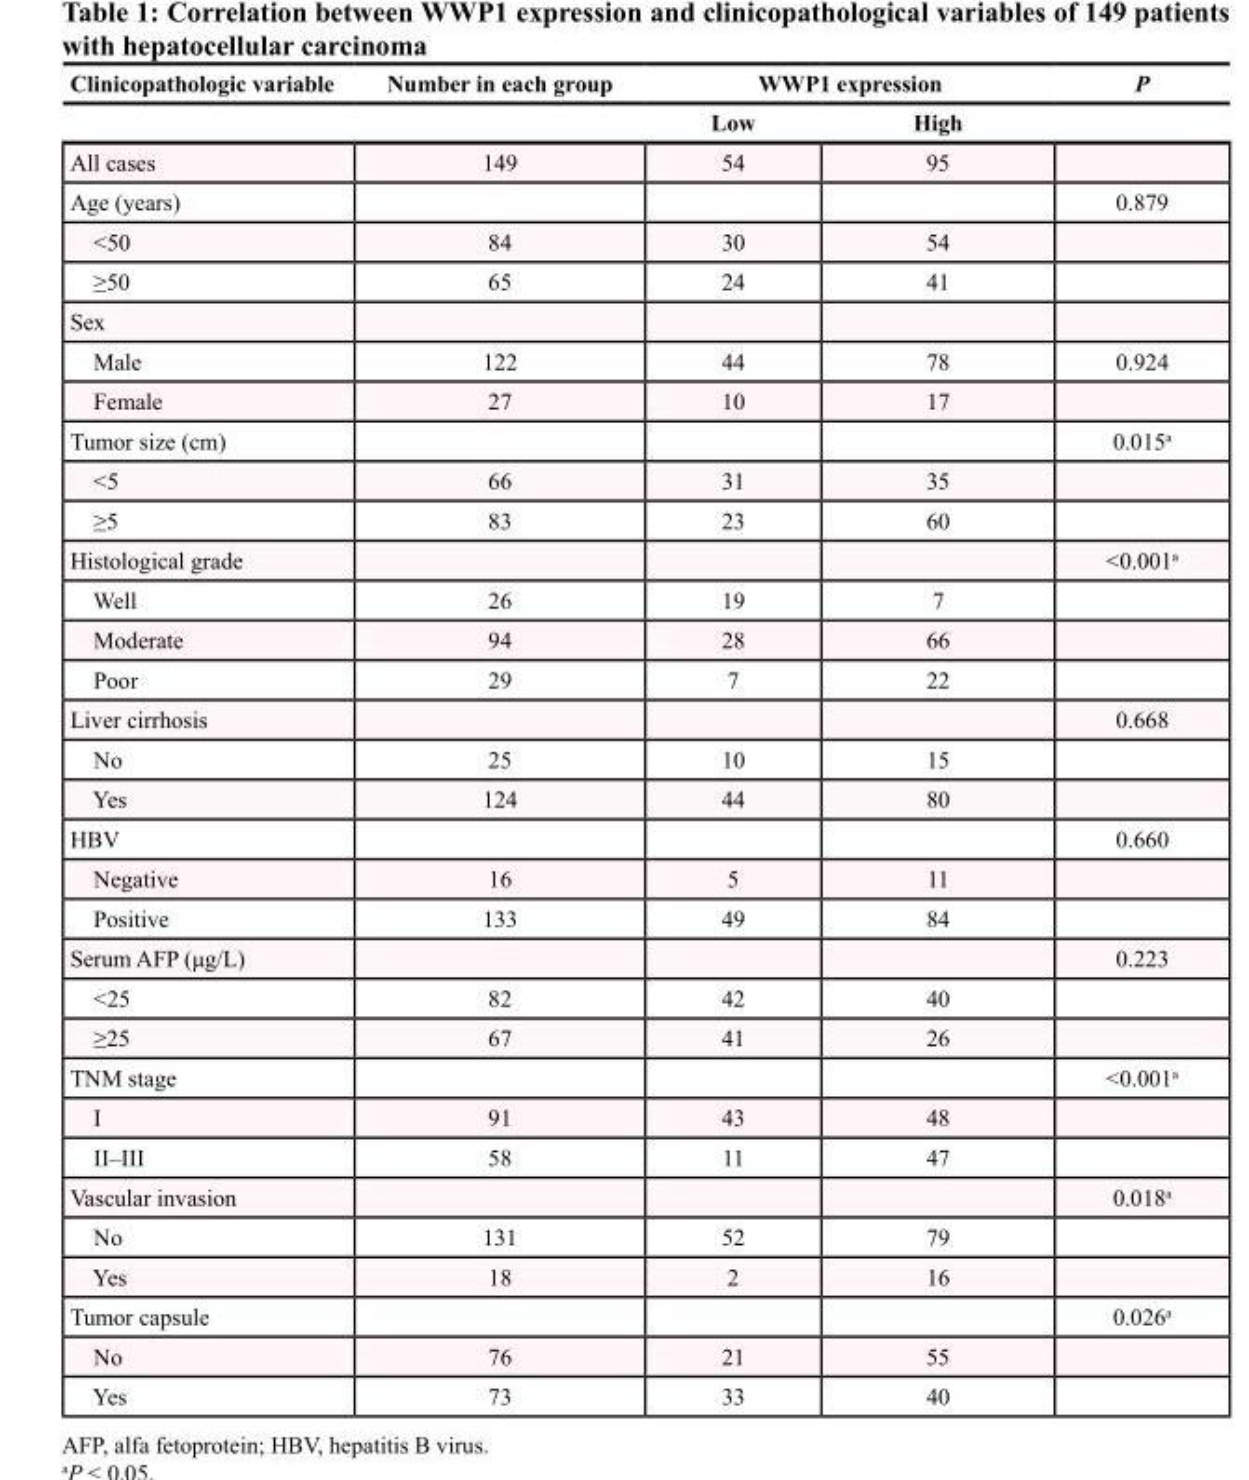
<table><thead><tr><td rowspan="2">Clinicopathologic variable</td><td rowspan="2">Number in each group</td><td colspan="2">WWP1 expression</td><td rowspan="2">P</td></tr><tr><td>Low</td><td>High</td></tr></thead><tbody><tr><td>All cases</td><td>149</td><td>54</td><td>95</td><td></td></tr><tr><td>Age (years)</td><td></td><td></td><td></td><td>0.879</td></tr><tr><td>&lt;50</td><td>84</td><td>30</td><td>54</td><td></td></tr><tr><td>≥50</td><td>65</td><td>24</td><td>41</td><td></td></tr><tr><td colspan="5">Sex</td></tr><tr><td>Male</td><td>122</td><td>44</td><td>78</td><td>0.924</td></tr><tr><td>Female</td><td>27</td><td>10</td><td>17</td><td></td></tr><tr><td>Tumor size (cm)</td><td></td><td></td><td></td><td>0.015<sup>a</sup></td></tr><tr><td>&lt;5</td><td>66</td><td>31</td><td>35</td><td></td></tr><tr><td>≥5</td><td>83</td><td>23</td><td>60</td><td></td></tr><tr><td>Histological grade</td><td></td><td></td><td></td><td>&lt;0.001<sup>a</sup></td></tr><tr><td>Well</td><td>26</td><td>19</td><td>7</td><td></td></tr><tr><td>Moderate</td><td>94</td><td>28</td><td>66</td><td></td></tr><tr><td>Poor</td><td>29</td><td>7</td><td>22</td><td></td></tr><tr><td>Liver cirrhosis</td><td></td><td></td><td></td><td>0.668</td></tr><tr><td>No</td><td>25</td><td>10</td><td>15</td><td></td></tr><tr><td>Yes</td><td>124</td><td>44</td><td>80</td><td></td></tr><tr><td>HBV</td><td></td><td></td><td></td><td>0.660</td></tr><tr><td>Negative</td><td>16</td><td>5</td><td>11</td><td></td></tr><tr><td>Positive</td><td>133</td><td>49</td><td>84</td><td></td></tr><tr><td>Serum AFP (μg/L)</td><td></td><td></td><td></td><td>0.223</td></tr><tr><td>&lt;25</td><td>82</td><td>42</td><td>40</td><td></td></tr><tr><td>≥25</td><td>67</td><td>41</td><td>26</td><td></td></tr><tr><td>TNM stage</td><td></td><td></td><td></td><td>&lt;0.001<sup>a</sup></td></tr><tr><td>I</td><td>91</td><td>43</td><td>48</td><td></td></tr><tr><td>II–III</td><td>58</td><td>11</td><td>47</td><td></td></tr><tr><td>Vascular invasion</td><td></td><td></td><td></td><td>0.018<sup>a</sup></td></tr><tr><td>No</td><td>131</td><td>52</td><td>79</td><td></td></tr><tr><td>Yes</td><td>18</td><td>2</td><td>16</td><td></td></tr><tr><td>Tumor capsule</td><td></td><td></td><td></td><td>0.026<sup>a</sup></td></tr><tr><td>No</td><td>76</td><td>21</td><td>55</td><td></td></tr><tr><td>Yes</td><td>73</td><td>33</td><td>40</td><td></td></tr></tbody></table>